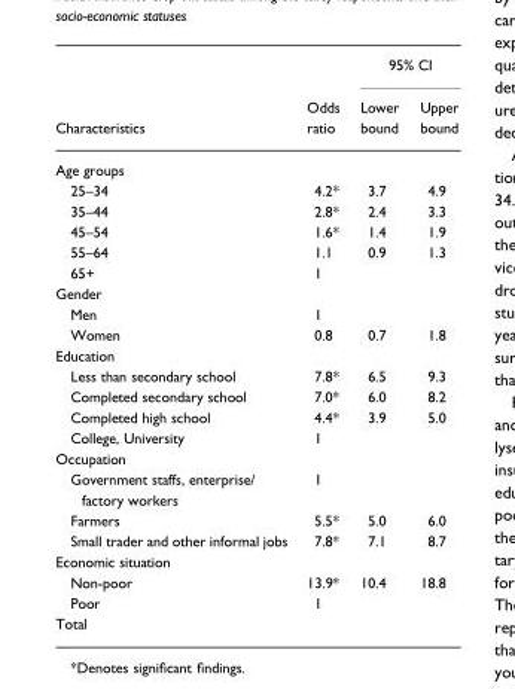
<table><thead><tr><td rowspan="2">Characteristics</td><td rowspan="2">Odds ratio</td><td colspan="2">95% CI</td></tr><tr><td>Lower bound</td><td>Upper bound</td></tr></thead><tbody><tr><td colspan="4">Age groups</td></tr><tr><td>25–34</td><td>4.2*</td><td>3.7</td><td>4.9</td></tr><tr><td>35–44</td><td>2.8*</td><td>2.4</td><td>3.3</td></tr><tr><td>45–54</td><td>1.6*</td><td>1.4</td><td>1.9</td></tr><tr><td>55–64</td><td>1.1</td><td>0.9</td><td>1.3</td></tr><tr><td>65+</td><td>1</td><td></td><td></td></tr><tr><td colspan="4">Gender</td></tr><tr><td>Men</td><td>1</td><td></td><td></td></tr><tr><td>Women</td><td>0.8</td><td>0.7</td><td>1.8</td></tr><tr><td colspan="4">Education</td></tr><tr><td>Less than secondary school</td><td>7.8*</td><td>6.5</td><td>9.3</td></tr><tr><td>Completed secondary school</td><td>7.0*</td><td>6.0</td><td>8.2</td></tr><tr><td>Completed high school</td><td>4.4*</td><td>3.9</td><td>5.0</td></tr><tr><td>College, University</td><td>1</td><td></td><td></td></tr><tr><td colspan="4">Occupation</td></tr><tr><td>Government staffs, enterprise/ factory workers</td><td>1</td><td></td><td></td></tr><tr><td>Farmers</td><td>5.5*</td><td>5.0</td><td>6.0</td></tr><tr><td>Small trader and other informal jobs</td><td>7.8*</td><td>7.1</td><td>8.7</td></tr><tr><td colspan="4">Economic situation</td></tr><tr><td>Non-poor</td><td>13.9*</td><td>10.4</td><td>18.8</td></tr><tr><td>Poor</td><td>1</td><td></td><td></td></tr><tr><td>Total</td><td></td><td></td><td></td></tr></tbody></table>